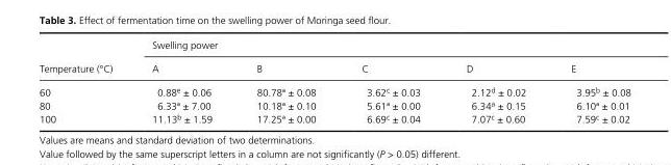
<table><thead><tr><td rowspan="2">Temperature (°C)</td><td colspan="5">Swelling power</td></tr><tr><td>A</td><td>B</td><td>C</td><td>D</td><td>E</td></tr></thead><tbody><tr><td>60</td><td>0.88<sup>e</sup> ± 0.06</td><td>80.78ª ± 0.08</td><td>3.62<sup>c</sup> ± 0.03</td><td>2.12d ± 0.02</td><td>3.95<sup>b</sup> ± 0.08</td></tr><tr><td>80</td><td>6.33ª ± 7.00</td><td>10.18ª ± 0.10</td><td>5.61ª ± 0.00</td><td>6.34<sup>a</sup> ± 0.15</td><td>6.10ª ± 0.01</td></tr><tr><td>100</td><td>11.13<sup>b</sup> ± 1.59</td><td>17.25ª ± 0.00</td><td>6.69<sup>c</sup> ± 0.04</td><td>7.07<sup>c</sup> ± 0.60</td><td>7.59<sup>c</sup> ± 0.02</td></tr></tbody></table>